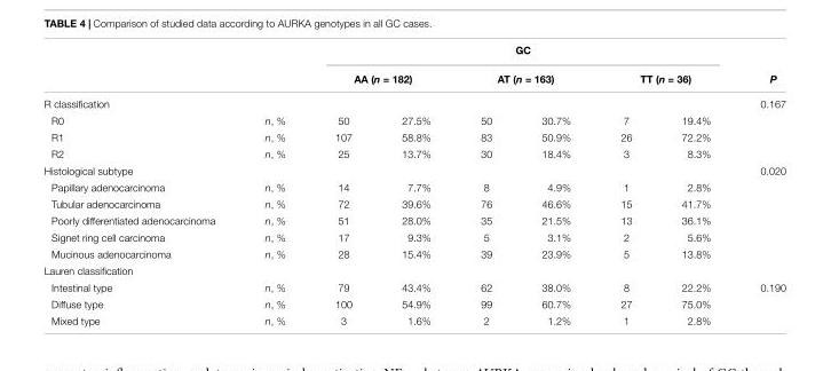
<table><thead><tr><td rowspan="3">R classification</td><td rowspan="3"></td><td colspan="6">GC</td><td rowspan="3">P 0.167</td></tr><tr><td colspan="2">AA (n = 182)</td><td colspan="2">AT (n = 163)</td><td colspan="2">TT (n = 36)</td></tr><tr><td></td><td></td><td></td><td></td><td></td><td></td></tr></thead><tbody><tr><td>R0</td><td>n, %</td><td>50</td><td>27.5%</td><td>50</td><td>30.7%</td><td>7</td><td>19.4%</td><td></td></tr><tr><td>R1</td><td>n, %</td><td>107</td><td>58.8%</td><td>83</td><td>50.9%</td><td>26</td><td>72.2%</td><td></td></tr><tr><td>R2</td><td>n, %</td><td>25</td><td>13.7%</td><td>30</td><td>18.4%</td><td>3</td><td>8.3%</td><td></td></tr><tr><td>Histological subtype</td><td></td><td></td><td></td><td></td><td></td><td></td><td></td><td>0.020</td></tr><tr><td>Papillary adenocarcinoma</td><td>n, %</td><td>14</td><td>7.7%</td><td>8</td><td>4.9%</td><td>1</td><td>2.8%</td><td></td></tr><tr><td>Tubular adenocarcinoma</td><td>n, %</td><td>72</td><td>39.6%</td><td>76</td><td>46.6%</td><td>15</td><td>41.7%</td><td></td></tr><tr><td>Poorly differentiated adenocarcinoma</td><td>n, %</td><td>51</td><td>28.0%</td><td>35</td><td>21.5%</td><td>13</td><td>36.1%</td><td></td></tr><tr><td>Signet ring cell carcinoma</td><td>n, %</td><td>17</td><td>9.3%</td><td>5</td><td>3.1%</td><td>2</td><td>5.6%</td><td></td></tr><tr><td>Mucinous adenocarcinoma</td><td>n, %</td><td>28</td><td>15.4%</td><td>39</td><td>23.9%</td><td>5</td><td>13.8%</td><td></td></tr><tr><td colspan="9">Lauren classification</td></tr><tr><td>Intestinal type</td><td>n, %</td><td>79</td><td>43.4%</td><td>62</td><td>38.0%</td><td>8</td><td>22.2%</td><td>0.190</td></tr><tr><td>Diffuse type</td><td>n, %</td><td>100</td><td>54.9%</td><td>99</td><td>60.7%</td><td>27</td><td>75.0%</td><td></td></tr><tr><td>Mixed type</td><td>n, %</td><td>3</td><td>1.6%</td><td>2</td><td>1.2%</td><td>1</td><td>2.8%</td><td></td></tr></tbody></table>